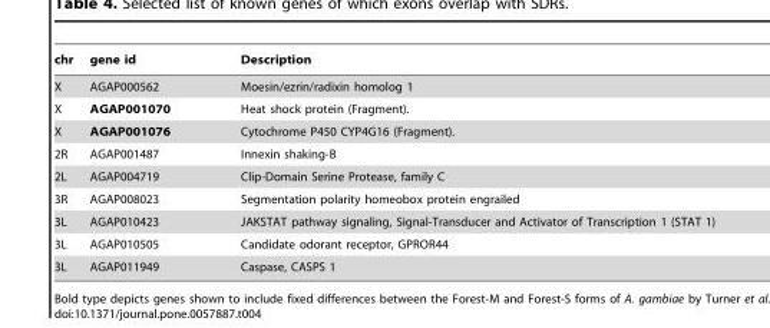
<table><thead><tr><td>chr</td><td>gene id</td><td>Description</td></tr></thead><tbody><tr><td>X</td><td>AGAP000562</td><td>Moesin/ezrin/radixin homolog 1</td></tr><tr><td>X</td><td>AGAP001070</td><td>Heat shock protein (Fragment).</td></tr><tr><td>X</td><td>AGAP001076</td><td>Cytochrome P450 CYP4G16 (Fragment).</td></tr><tr><td>2R</td><td>AGAP001487</td><td>Innexin shaking-B</td></tr><tr><td>2L</td><td>AGAP004719</td><td>Clip-Domain Serine Protease, family C</td></tr><tr><td>3R</td><td>AGAP008023</td><td>Segmentation polarity homeobox protein engrailed</td></tr><tr><td>3L</td><td>AGAP010423</td><td>JAKSTAT pathway signaling, Signal-Transducer and Activator of Transcription 1 (STAT 1)</td></tr><tr><td>3L</td><td>AGAP010505</td><td>Candidate odorant receptor, GPROR44</td></tr><tr><td>3L</td><td>AGAP011949</td><td>Caspase, CASPS 1</td></tr></tbody></table>